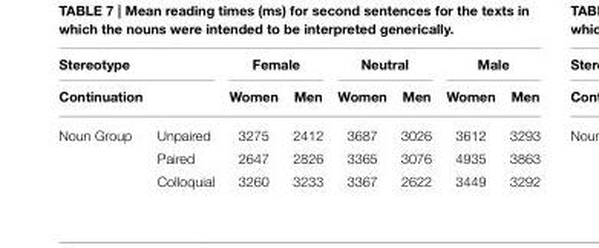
<table><thead><tr><td rowspan="2" colspan="2">Stereotype Continuation</td><td colspan="2">Female</td><td colspan="2">Neutral</td><td colspan="2">Male</td></tr><tr><td rowspan="2">Women 3275</td><td rowspan="2">Men 2412</td><td rowspan="2">Women 3687</td><td rowspan="2">Men 3026</td><td rowspan="2">Women 3612</td><td rowspan="2">Men 3293</td></tr><tr><td>Noun Group</td><td>Unpaired</td></tr></thead><tbody><tr><td></td><td>Paired</td><td>2647</td><td>2826</td><td>3365</td><td>3076</td><td>4935</td><td>3863</td></tr><tr><td></td><td>Colloquial</td><td>3260</td><td>3233</td><td>3367</td><td>2622</td><td>3449</td><td>3292</td></tr></tbody></table>